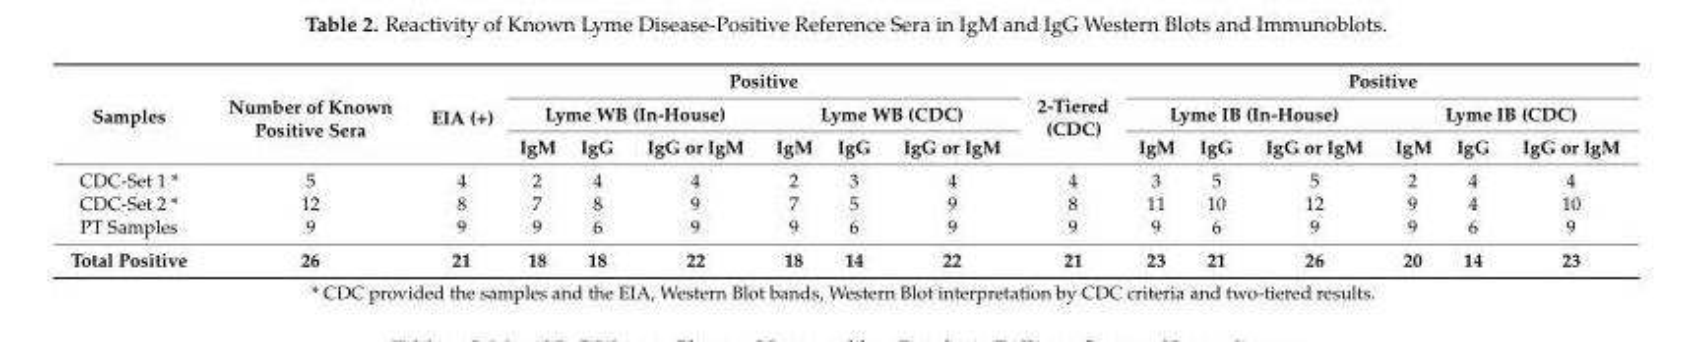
<table><thead><tr><td rowspan="3">Samples</td><td rowspan="3">Number of Known Positive Sera</td><td rowspan="3">EIA (+)</td><td colspan="6">Positive</td><td rowspan="3">2-Tiered (CDC)</td><td colspan="6">Positive</td></tr><tr><td colspan="3">Lyme WB (In-House)</td><td colspan="3">Lyme WB (CDC)</td><td colspan="3">Lyme IB (In-House)</td><td colspan="3">Lyme IB (CDC)</td></tr><tr><td>IgM</td><td>IgG</td><td>IgG or IgM</td><td>IgM</td><td>IgG</td><td>IgG or IgM</td><td>IgM</td><td>IgG</td><td>IgG or IgM</td><td>IgM</td><td>IgG</td><td>IgG or IgM</td></tr></thead><tbody><tr><td>CDC-Set 1 *</td><td>5</td><td>4</td><td>2</td><td>4</td><td>4</td><td>2</td><td>3</td><td>4</td><td>4</td><td>3</td><td>5</td><td>5</td><td>2</td><td>4</td><td>4</td></tr><tr><td>CDC-Set 2 *</td><td>12</td><td>8</td><td>7</td><td>8</td><td>9</td><td>7</td><td>5</td><td>9</td><td>8</td><td>11</td><td>10</td><td>12</td><td>9</td><td>4</td><td>10</td></tr><tr><td>PT Samples</td><td>9</td><td>9</td><td>9</td><td>6</td><td>9</td><td>9</td><td>6</td><td>9</td><td>9</td><td>9</td><td>6</td><td>9</td><td>9</td><td>6</td><td>9</td></tr><tr><td>Total Positive</td><td>26</td><td>21</td><td>18</td><td>18</td><td>22</td><td>18</td><td>14</td><td>22</td><td>21</td><td>23</td><td>21</td><td>26</td><td>20</td><td>14</td><td>23</td></tr></tbody></table>